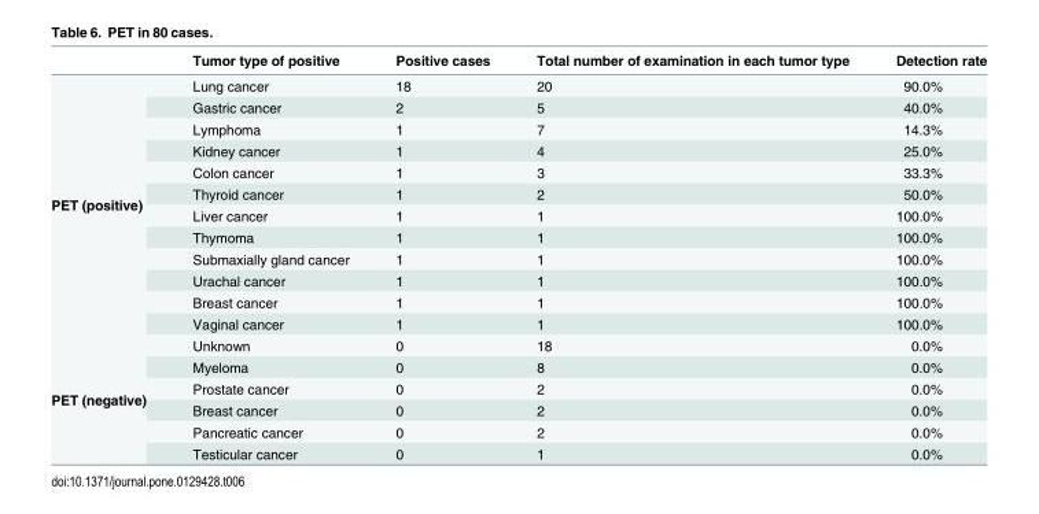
<table><thead><tr><td></td><td>Tumor type of positive</td><td>Positive cases</td><td>Total number of examination in each tumor type</td><td>Detection rate</td></tr></thead><tbody><tr><td rowspan="12">PET (positive)</td><td>Lung cancer</td><td>18</td><td>20</td><td>90.0%</td></tr><tr><td>Gastric cancer</td><td>2</td><td>5</td><td>40.0%</td></tr><tr><td>Lymphoma</td><td>1</td><td>7</td><td>14.3%</td></tr><tr><td>Kidney cancer</td><td>1</td><td>4</td><td>25.0%</td></tr><tr><td>Colon cancer</td><td>1</td><td>3</td><td>33.3%</td></tr><tr><td>Thyroid cancer</td><td>1</td><td>2</td><td>50.0%</td></tr><tr><td>Liver cancer</td><td>1</td><td>1</td><td>100.0%</td></tr><tr><td>Thymoma</td><td>1</td><td>1</td><td>100.0%</td></tr><tr><td>Submaxially gland cancer</td><td>1</td><td>1</td><td>100.0%</td></tr><tr><td>Urachal cancer</td><td>1</td><td>1</td><td>100.0%</td></tr><tr><td>Breast cancer</td><td>1</td><td>1</td><td>100.0%</td></tr><tr><td>Vaginal cancer</td><td>1</td><td>1</td><td>100.0%</td></tr><tr><td rowspan="6">PET (negative)</td><td>Unknown</td><td>0</td><td>18</td><td>0.0%</td></tr><tr><td>Myeloma</td><td>0</td><td>8</td><td>0.0%</td></tr><tr><td>Prostate cancer</td><td>0</td><td>2</td><td>0.0%</td></tr><tr><td>Breast cancer</td><td>0</td><td>2</td><td>0.0%</td></tr><tr><td>Pancreatic cancer</td><td>0</td><td>2</td><td>0.0%</td></tr><tr><td>Testicular cancer</td><td>0</td><td>1</td><td>0.0%</td></tr></tbody></table>